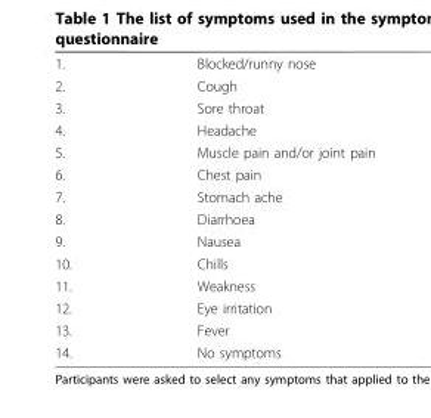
<table><tbody><tr><td>1.</td><td>Blocked/runny nose</td></tr><tr><td>2.</td><td>Cough</td></tr><tr><td>3.</td><td>Sore throat</td></tr><tr><td>4.</td><td>Headache</td></tr><tr><td>5.</td><td>Muscle pain and/or joint pain</td></tr><tr><td>6.</td><td>Chest pain</td></tr><tr><td>7.</td><td>Stomach ache</td></tr><tr><td>8.</td><td>Diarrhoea</td></tr><tr><td>9.</td><td>Nausea</td></tr><tr><td>10.</td><td>Chills</td></tr><tr><td>11.</td><td>Weakness</td></tr><tr><td>12.</td><td>Eye irritation</td></tr><tr><td>13.</td><td>Fever</td></tr><tr><td>14.</td><td>No symptoms</td></tr></tbody></table>